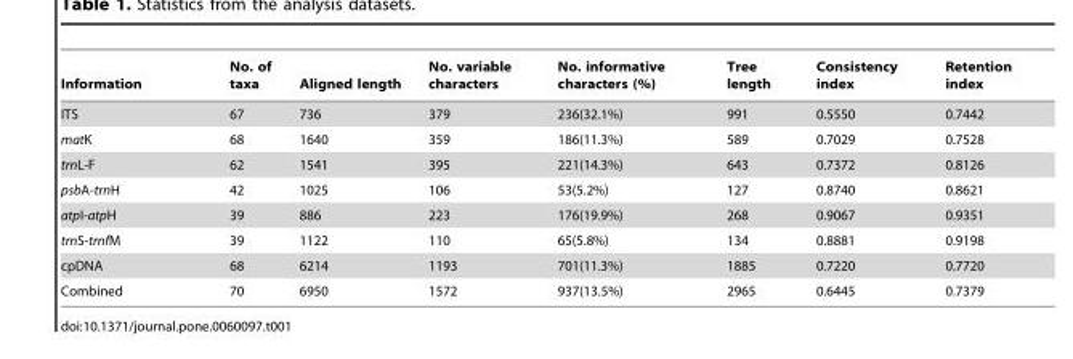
<table><thead><tr><td>Information</td><td>No. of taxa</td><td>Aligned length</td><td>No. variable characters</td><td>No. informative characters (%)</td><td>Tree length</td><td>Consistency index</td><td>Retention index</td></tr></thead><tbody><tr><td>ITS</td><td>67</td><td>736</td><td>379</td><td>236(32.1%)</td><td>991</td><td>0.5550</td><td>0.7442</td></tr><tr><td>matK</td><td>68</td><td>1640</td><td>359</td><td>186(11.3%)</td><td>589</td><td>0.7029</td><td>0.7528</td></tr><tr><td>trnL-F</td><td>62</td><td>1541</td><td>395</td><td>221(14.3%)</td><td>643</td><td>0.7372</td><td>0.8126</td></tr><tr><td>psbA-trnH</td><td>42</td><td>1025</td><td>106</td><td>53(5.2%)</td><td>127</td><td>0.8740</td><td>0.8621</td></tr><tr><td>atpI-atpH</td><td>39</td><td>886</td><td>223</td><td>176(19.9%)</td><td>268</td><td>0.9067</td><td>0.9351</td></tr><tr><td>trnS-trnfM</td><td>39</td><td>1122</td><td>110</td><td>65(5.8%)</td><td>134</td><td>0.8881</td><td>0.9198</td></tr><tr><td>cpDNA</td><td>68</td><td>6214</td><td>1193</td><td>701(11.3%)</td><td>1885</td><td>0.7220</td><td>0.7720</td></tr><tr><td>Combined</td><td>70</td><td>6950</td><td>1572</td><td>937(13.5%)</td><td>2965</td><td>0.6445</td><td>0.7379</td></tr></tbody></table>